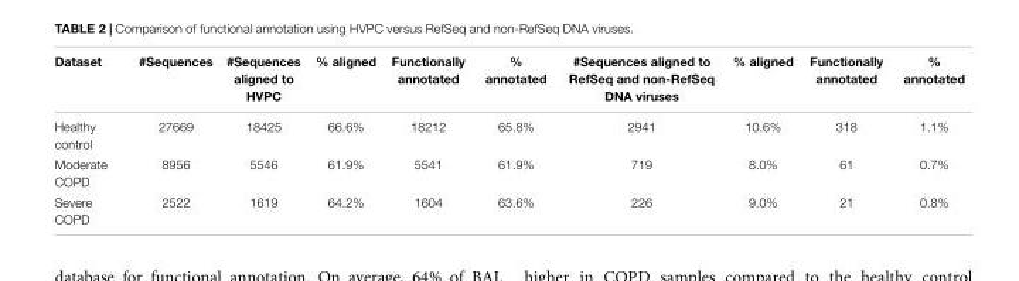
<table><thead><tr><td>Dataset</td><td>#Sequences</td><td>#Sequences aligned to HVPC</td><td>% aligned</td><td>Functionally annotated</td><td>% annotated</td><td>#Sequences aligned to RefSeq and non-RefSeq DNA viruses</td><td>% aligned</td><td>Functionally annotated</td><td>% annotated</td></tr></thead><tbody><tr><td>Healthy control</td><td>27669</td><td>18425</td><td>66.6%</td><td>18212</td><td>65.8%</td><td>2941</td><td>10.6%</td><td>318</td><td>1.1%</td></tr><tr><td>Moderate COPD</td><td>8956</td><td>5546</td><td>61.9%</td><td>5541</td><td>61.9%</td><td>719</td><td>8.0%</td><td>61</td><td>0.7%</td></tr><tr><td>Severe COPD</td><td>2522</td><td>1619</td><td>64.2%</td><td>1604</td><td>63.6%</td><td>226</td><td>9.0%</td><td>21</td><td>0.8%</td></tr></tbody></table>